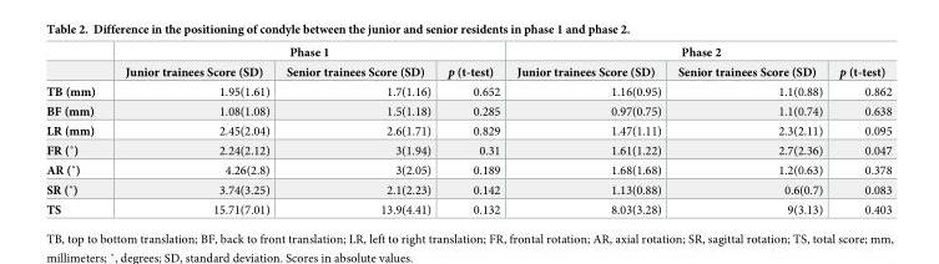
<table><thead><tr><td rowspan="2"></td><td colspan="3">Phase 1</td><td colspan="3">Phase 2</td></tr><tr><td>Junior trainees Score (SD)</td><td>Senior trainees Score (SD)</td><td>p (t-test)</td><td>Junior trainees Score (SD)</td><td>Senior trainees Score (SD)</td><td>p (t-test)</td></tr></thead><tbody><tr><td>TB (mm)</td><td>1.95(1.61)</td><td>1.7(1.16)</td><td>0.652</td><td>1.16(0.95)</td><td>1.1(0.88)</td><td>0.862</td></tr><tr><td>BF (mm)</td><td>1.08(1.08)</td><td>1.5(1.18)</td><td>0.285</td><td>0.97(0.75)</td><td>1.1(0.74)</td><td>0.638</td></tr><tr><td>LR (mm)</td><td>2.45(2.04)</td><td>2.6(1.71)</td><td>0.829</td><td>1.47(1.11)</td><td>2.3(2.11)</td><td>0.095</td></tr><tr><td>FR (˚)</td><td>2.24(2.12)</td><td>3(1.94)</td><td>0.31</td><td>1.61(1.22)</td><td>2.7(2.36)</td><td>0.047</td></tr><tr><td>AR (˚)</td><td>4.26(2.8)</td><td>3(2.05)</td><td>0.189</td><td>1.68(1.68)</td><td>1.2(0.63)</td><td>0.378</td></tr><tr><td>SR (˚)</td><td>3.74(3.25)</td><td>2.1(2.23)</td><td>0.142</td><td>1.13(0.88)</td><td>0.6(0.7)</td><td>0.083</td></tr><tr><td>TS</td><td>15.71(7.01)</td><td>13.9(4.41)</td><td>0.132</td><td>8.03(3.28)</td><td>9(3.13)</td><td>0.403</td></tr></tbody></table>